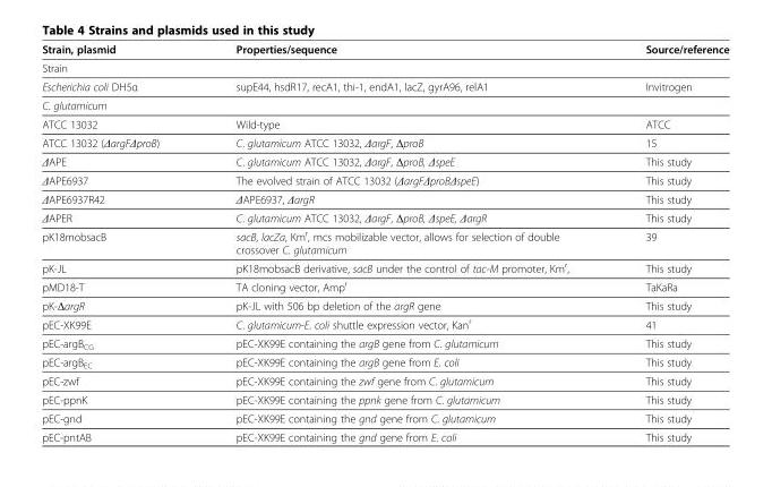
<table><thead><tr><td>Strain, plasmid</td><td>Properties/sequence</td><td>Source/reference</td></tr></thead><tbody><tr><td colspan="3">Strain</td></tr><tr><td>Escherichia coli DH5α</td><td>supE44, hsdR17, recA1, thi-1, endA1, lacZ, gyrA96, relA1</td><td>Invitrogen</td></tr><tr><td colspan="3">C. glutamicum</td></tr><tr><td>ATCC 13032</td><td>Wild-type</td><td>ATCC</td></tr><tr><td>ATCC 13032 (ΔargFΔproB)</td><td>C. glutamicum ATCC 13032, ΔargF, ΔproB</td><td>15</td></tr><tr><td>ΔAPE</td><td>C. glutamicum ATCC 13032, ΔargF, ΔproB, ΔspeE</td><td>This study</td></tr><tr><td>ΔAPE6937</td><td>The evolved strain of ATCC 13032 (ΔargFΔproBΔspeE)</td><td>This study</td></tr><tr><td>ΔAPE6937R42</td><td>ΔAPE6937, ΔargR</td><td>This study</td></tr><tr><td>ΔAPER</td><td>C. glutamicum ATCC 13032, ΔargF, ΔproB, ΔspeE, ΔargR</td><td>This study</td></tr><tr><td>pK18mobsacB</td><td>sacB, lacZa, Km<sup>r</sup>, mcs mobilizable vector, allows for selection of double crossover C. glutamicum</td><td>39</td></tr><tr><td>pK-JL</td><td>pK18mobsacB derivative, sacB under the control of tac-M promoter, Km<sup>r</sup>,</td><td>This study</td></tr><tr><td>pMD18-T</td><td>TA cloning vector, Amp<sup>r</sup></td><td>TaKaRa</td></tr><tr><td>pK-ΔargR</td><td>pK-JL with 506 bp deletion of the argR gene</td><td>This study</td></tr><tr><td>pEC-XK99E</td><td>C. glutamicum-E. coli shuttle expression vector, Kan<sup>r</sup></td><td>41</td></tr><tr><td>pEC-argB<sub>CG</sub></td><td>pEC-XK99E containing the argB gene from C. glutamicum</td><td>This study</td></tr><tr><td>pEC-argB<sub>EC</sub></td><td>pEC-XK99E containing the argB gene from E. coli</td><td>This study</td></tr><tr><td>pEC-zwf</td><td>pEC-XK99E containing the zwf gene from C. glutamicum</td><td>This study</td></tr><tr><td>pEC-ppnK</td><td>pEC-XK99E containing the ppnk gene from C. glutamicum</td><td>This study</td></tr><tr><td>pEC-gnd</td><td>pEC-XK99E containing the gnd gene from C. glutamicum</td><td>This study</td></tr><tr><td>pEC-pntAB</td><td>pEC-XK99E containing the gnd gene from E. coli</td><td>This study</td></tr></tbody></table>